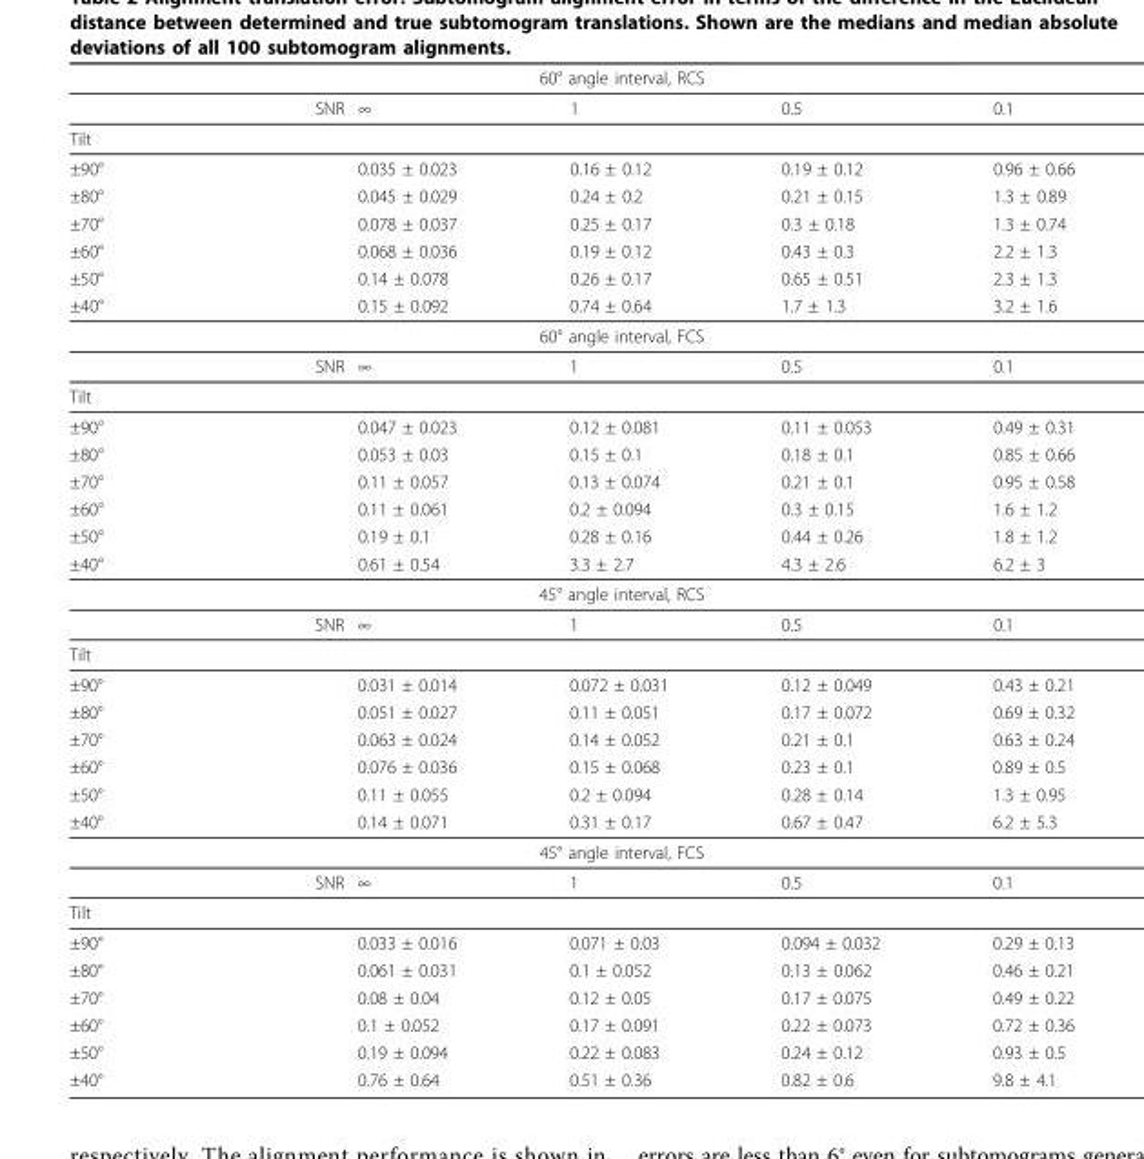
<table><thead><tr><td colspan="6">60° angle interval, RCS</td></tr><tr><td></td><td>SNR</td><td>∞</td><td>1</td><td>0.5</td><td>0.1</td></tr></thead><tbody><tr><td colspan="6">Tilt</td></tr><tr><td>±90°</td><td></td><td>0.035 ± 0.023</td><td>0.16 ± 0.12</td><td>0.19 ± 0.12</td><td>0.96 ± 0.66</td></tr><tr><td>±80°</td><td></td><td>0.045 ± 0.029</td><td>0.24 ± 0.2</td><td>0.21 ± 0.15</td><td>1.3 ± 0.89</td></tr><tr><td>±70°</td><td></td><td>0.078 ± 0.037</td><td>0.25 ± 0.17</td><td>0.3 ± 0.18</td><td>1.3 ± 0.74</td></tr><tr><td>±60°</td><td></td><td>0.068 ± 0.036</td><td>0.19 ± 0.12</td><td>0.43 ± 0.3</td><td>2.2 ± 1.3</td></tr><tr><td>±50°</td><td></td><td>0.14 ± 0.078</td><td>0.26 ± 0.17</td><td>0.65 ± 0.51</td><td>2.3 ± 1.3</td></tr><tr><td>±40°</td><td></td><td>0.15 ± 0.092</td><td>0.74 ± 0.64</td><td>1.7 ± 1.3</td><td>3.2 ± 1.6</td></tr><tr><td colspan="6">60° angle interval, FCS</td></tr><tr><td></td><td>SNR</td><td>∞</td><td>1</td><td>0.5</td><td>0.1</td></tr><tr><td colspan="6">Tilt</td></tr><tr><td>±90°</td><td></td><td>0.047 ± 0.023</td><td>0.12 ± 0.081</td><td>0.11 ± 0.053</td><td>0.49 ± 0.31</td></tr><tr><td>±80°</td><td></td><td>0.053 ± 0.03</td><td>0.15 ± 0.1</td><td>0.18 ± 0.1</td><td>0.85 ± 0.66</td></tr><tr><td>±70°</td><td></td><td>0.11 ± 0.057</td><td>0.13 ± 0.074</td><td>0.21 ± 0.1</td><td>0.95 ± 0.58</td></tr><tr><td>±60°</td><td></td><td>0.11 ± 0.061</td><td>0.2 ± 0.094</td><td>0.3 ± 0.15</td><td>1.6 ± 1.2</td></tr><tr><td>±50°</td><td></td><td>0.19 ± 0.1</td><td>0.28 ± 0.16</td><td>0.44 ± 0.26</td><td>1.8 ± 1.2</td></tr><tr><td>±40°</td><td></td><td>0.61 ± 0.54</td><td>3.3 ± 2.7</td><td>4.3 ± 2.6</td><td>6.2 ± 3</td></tr><tr><td colspan="6">45° angle interval, RCS</td></tr><tr><td></td><td>SNR</td><td>∞</td><td>1</td><td>0.5</td><td>0.1</td></tr><tr><td colspan="6">Tilt</td></tr><tr><td>±90°</td><td></td><td>0.031 ± 0.014</td><td>0.072 ± 0.031</td><td>0.12 ± 0.049</td><td>0.43 ± 0.21</td></tr><tr><td>±80°</td><td></td><td>0.051 ± 0.027</td><td>0.11 ± 0.051</td><td>0.17 ± 0.072</td><td>0.69 ± 0.32</td></tr><tr><td>±70°</td><td></td><td>0.063 ± 0.024</td><td>0.14 ± 0.052</td><td>0.21 ± 0.1</td><td>0.63 ± 0.24</td></tr><tr><td>±60°</td><td></td><td>0.076 ± 0.036</td><td>0.15 ± 0.068</td><td>0.23 ± 0.1</td><td>0.89 ± 0.5</td></tr><tr><td>±50°</td><td></td><td>0.11 ± 0.055</td><td>0.2 ± 0.094</td><td>0.28 ± 0.14</td><td>1.3 ± 0.95</td></tr><tr><td>±40°</td><td></td><td>0.14 ± 0.071</td><td>0.31 ± 0.17</td><td>0.67 ± 0.47</td><td>6.2 ± 5.3</td></tr><tr><td colspan="6">45° angle interval, FCS</td></tr><tr><td></td><td>SNR</td><td>∞</td><td>1</td><td>0.5</td><td>0.1</td></tr><tr><td colspan="6">Tilt</td></tr><tr><td>±90°</td><td></td><td>0.033 ± 0.016</td><td>0.071 ± 0.03</td><td>0.094 ± 0.032</td><td>0.29 ± 0.13</td></tr><tr><td>±80°</td><td></td><td>0.061 ± 0.031</td><td>0.1 ± 0.052</td><td>0.13 ± 0.062</td><td>0.46 ± 0.21</td></tr><tr><td>±70°</td><td></td><td>0.08 ± 0.04</td><td>0.12 ± 0.05</td><td>0.17 ± 0.075</td><td>0.49 ± 0.22</td></tr><tr><td>±60°</td><td></td><td>0.1 ± 0.052</td><td>0.17 ± 0.091</td><td>0.22 ± 0.073</td><td>0.72 ± 0.36</td></tr><tr><td>±50°</td><td></td><td>0.19 ± 0.094</td><td>0.22 ± 0.083</td><td>0.24 ± 0.12</td><td>0.93 ± 0.5</td></tr><tr><td>±40°</td><td></td><td>0.76 ± 0.64</td><td>0.51 ± 0.36</td><td>0.82 ± 0.6</td><td>9.8 ± 4.1</td></tr></tbody></table>